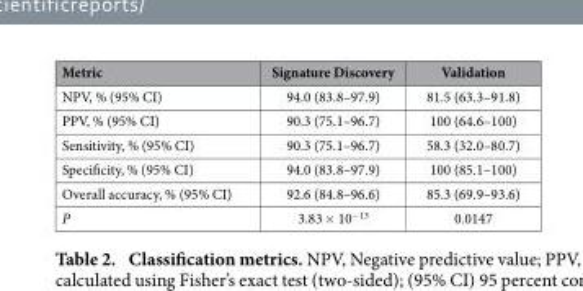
<table><thead><tr><td>Metric</td><td>Signature Discovery</td><td>Validation</td></tr></thead><tbody><tr><td>NPV, % (95% CI)</td><td>94.0 (83.8–97.9)</td><td>81.5 (63.3–91.8)</td></tr><tr><td>PPV, % (95% CI)</td><td>90.3 (75.1–96.7)</td><td>100 (64.6–100)</td></tr><tr><td>Sensitivity, % (95% CI)</td><td>90.3 (75.1–96.7)</td><td>58.3 (32.0–80.7)</td></tr><tr><td>Specificity, % (95% CI)</td><td>94.0 (83.8–97.9)</td><td>100 (85.1–100)</td></tr><tr><td>Overall accuracy, % (95% CI)</td><td>92.6 (84.8–96.6)</td><td>85.3 (69.9–93.6)</td></tr><tr><td>P</td><td>3.83 × 10<sup>−13</sup></td><td>0.0147</td></tr></tbody></table>